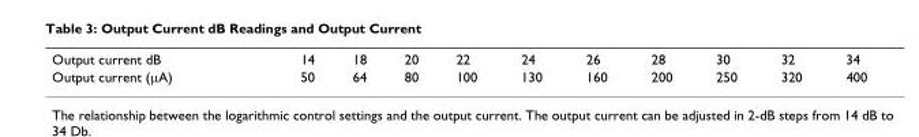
<table><tbody><tr><td>Output current dB</td><td>14</td><td>18</td><td>20</td><td>22</td><td>24</td><td>26</td><td>28</td><td>30</td><td>32</td><td>34</td></tr><tr><td>Output current (μA)</td><td>50</td><td>64</td><td>80</td><td>100</td><td>130</td><td>160</td><td>200</td><td>250</td><td>320</td><td>400</td></tr></tbody></table>